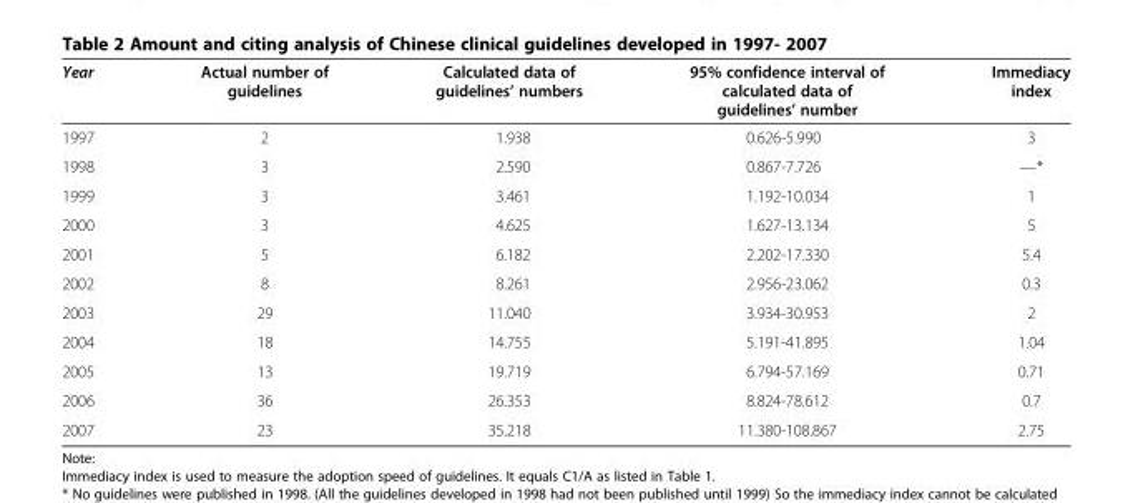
<table><thead><tr><td>Year</td><td>Actual number of guidelines</td><td>Calculated data of guidelines’ numbers</td><td>95% confidence interval of calculated data of guidelines’ number</td><td>Immediacy index</td></tr></thead><tbody><tr><td>1997</td><td>2</td><td>1.938</td><td>0.626-5.990</td><td>3</td></tr><tr><td>1998</td><td>3</td><td>2.590</td><td>0.867-7.726</td><td>—*</td></tr><tr><td>1999</td><td>3</td><td>3.461</td><td>1.192-10.034</td><td>1</td></tr><tr><td>2000</td><td>3</td><td>4.625</td><td>1.627-13.134</td><td>5</td></tr><tr><td>2001</td><td>5</td><td>6.182</td><td>2.202-17.330</td><td>5.4</td></tr><tr><td>2002</td><td>8</td><td>8.261</td><td>2.956-23.062</td><td>0.3</td></tr><tr><td>2003</td><td>29</td><td>11.040</td><td>3.934-30.953</td><td>2</td></tr><tr><td>2004</td><td>18</td><td>14.755</td><td>5.191-41.895</td><td>1.04</td></tr><tr><td>2005</td><td>13</td><td>19.719</td><td>6.794-57.169</td><td>0.71</td></tr><tr><td>2006</td><td>36</td><td>26.353</td><td>8.824-78.612</td><td>0.7</td></tr><tr><td>2007</td><td>23</td><td>35.218</td><td>11.380-108.867</td><td>2.75</td></tr></tbody></table>